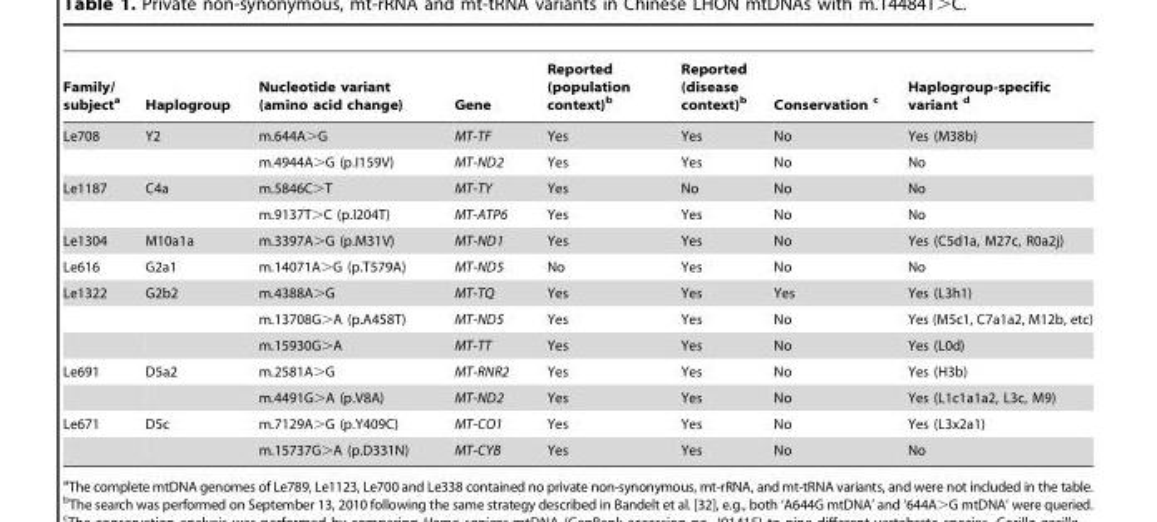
<table><thead><tr><td>Family/ subject<sup>a</sup></td><td>Haplogroup</td><td>Nucleotide variant (amino acid change)</td><td>Gene</td><td>Reported (population context)<sup>b</sup></td><td>Reported (disease context)<sup>b</sup></td><td>Conservation c</td><td>Haplogroup-specific variant d</td></tr></thead><tbody><tr><td rowspan="2">Le708</td><td>Y2</td><td>m.644A&gt;G</td><td>MT-TF</td><td>Yes</td><td>Yes</td><td>No</td><td>Yes (M38b)</td></tr><tr><td></td><td>m.4944A&gt;G (p.I159V)</td><td>MT-ND2</td><td>Yes</td><td>Yes</td><td>No</td><td>No</td></tr><tr><td rowspan="2">Le1187</td><td>C4a</td><td>m.5846C&gt;T</td><td>MT-TY</td><td>Yes</td><td>No</td><td>No</td><td>No</td></tr><tr><td></td><td>m.9137T&gt;C (p.I204T)</td><td>MT-ATP6</td><td>Yes</td><td>Yes</td><td>No</td><td>No</td></tr><tr><td>Le1304</td><td>M10a1a</td><td>m.3397A&gt;G (p.M31V)</td><td>MT-ND1</td><td>Yes</td><td>Yes</td><td>No</td><td>Yes (C5d1a, M27c, R0a2j)</td></tr><tr><td>Le616</td><td>G2a1</td><td>m.14071A&gt;G (p.T579A)</td><td>MT-ND5</td><td>No</td><td>Yes</td><td>No</td><td>No</td></tr><tr><td rowspan="3">Le1322</td><td>G2b2</td><td>m.4388A&gt;G</td><td>MT-TQ</td><td>Yes</td><td>Yes</td><td>Yes</td><td>Yes (L3h1)</td></tr><tr><td></td><td>m.13708G&gt;A (p.A458T)</td><td>MT-ND5</td><td>Yes</td><td>Yes</td><td>No</td><td>Yes (M5c1, C7a1a2, M12b, etc)</td></tr><tr><td></td><td>m.15930G&gt;A</td><td>MT-TT</td><td>Yes</td><td>Yes</td><td>No</td><td>Yes (L0d)</td></tr><tr><td rowspan="2">Le691</td><td>D5a2</td><td>m.2581A&gt;G</td><td>MT-RNR2</td><td>Yes</td><td>Yes</td><td>No</td><td>Yes (H3b)</td></tr><tr><td></td><td>m.4491G&gt;A (p.V8A)</td><td>MT-ND2</td><td>Yes</td><td>Yes</td><td>No</td><td>Yes (L1c1a1a2, L3c, M9)</td></tr><tr><td rowspan="2">Le671</td><td>D5c</td><td>m.7129A&gt;G (p.Y409C)</td><td>MT-CO1</td><td>Yes</td><td>Yes</td><td>No</td><td>Yes (L3x2a1)</td></tr><tr><td></td><td>m.15737G&gt;A (p.D331N)</td><td>MT-CYB</td><td>Yes</td><td>Yes</td><td>No</td><td>No</td></tr></tbody></table>